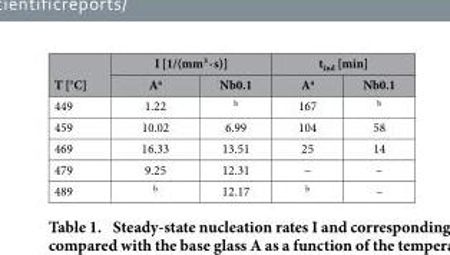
<table><thead><tr><td rowspan="2">T [°C]</td><td colspan="2">I [1/(mm<sup>3</sup> · s)]</td><td colspan="2">t<sub>ind</sub> [min]</td></tr><tr><td>A<sup>a</sup></td><td>Nb0.1</td><td>A<sup>a</sup></td><td>Nb0.1</td></tr></thead><tbody><tr><td>449</td><td>1.22</td><td>b</td><td>167</td><td>b</td></tr><tr><td>459</td><td>10.02</td><td>6.99</td><td>104</td><td>58</td></tr><tr><td>469</td><td>16.33</td><td>13.51</td><td>25</td><td>14</td></tr><tr><td>479</td><td>9.25</td><td>12.31</td><td>–</td><td>–</td></tr><tr><td>489</td><td>b</td><td>12.17</td><td>b</td><td>–</td></tr></tbody></table>